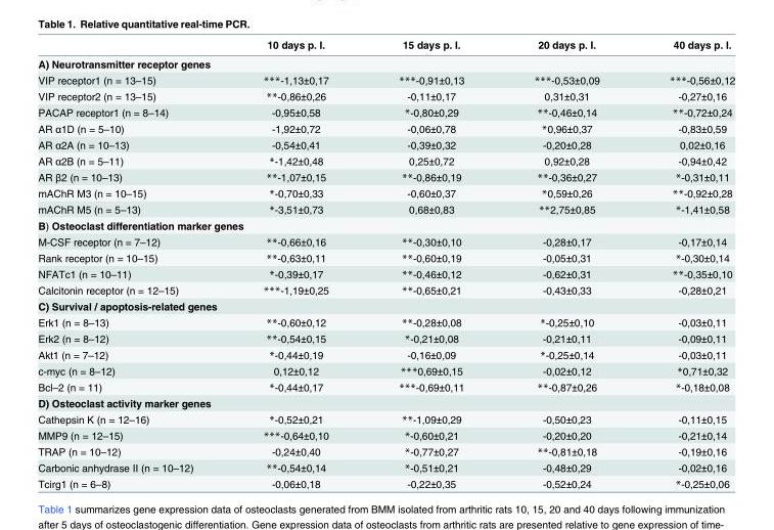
<table><thead><tr><td></td><td>10 days p. I.</td><td>15 days p. I.</td><td>20 days p. I.</td><td>40 days p. I.</td></tr></thead><tbody><tr><td colspan="5">A) Neurotransmitter receptor genes</td></tr><tr><td>VIP receptor1 (n = 13–15)</td><td>***-1,13±0,17</td><td>***-0,91±0,13</td><td>***-0,53±0,09</td><td>***-0,56±0,12</td></tr><tr><td>VIP receptor2 (n = 13–15)</td><td>**-0,86±0,26</td><td>-0,11±0,17</td><td>0,31±0,31</td><td>-0,27±0,16</td></tr><tr><td>PACAP receptor1 (n = 8–14)</td><td>-0,95±0,58</td><td>*-0,80±0,29</td><td>**-0,46±0,14</td><td>**-0,72±0,24</td></tr><tr><td>AR α1D (n = 5–10)</td><td>-1,92±0,72</td><td>-0,06±0,78</td><td>*0,96±0,37</td><td>-0,83±0,59</td></tr><tr><td>AR α2A (n = 10–13)</td><td>-0,54±0,41</td><td>-0,39±0,32</td><td>-0,20±0,28</td><td>0,02±0,16</td></tr><tr><td>AR α2B (n = 5–11)</td><td>*-1,42±0,48</td><td>0,25±0,72</td><td>0,92±0,28</td><td>-0,94±0,42</td></tr><tr><td>AR β2 (n = 10–13)</td><td>**-1,07±0,15</td><td>**-0,86±0,19</td><td>**-0,36±0,27</td><td>*-0,31±0,11</td></tr><tr><td>mAChR M3 (n = 10–15)</td><td>*-0,70±0,33</td><td>-0,60±0,37</td><td>*0,59±0,26</td><td>**-0,92±0,28</td></tr><tr><td>mAChR M5 (n = 5–13)</td><td>*-3,51±0,73</td><td>0,68±0,83</td><td>**2,75±0,85</td><td>*-1,41±0,58</td></tr><tr><td colspan="5">B) Osteoclast differentiation marker genes</td></tr><tr><td>M-CSF receptor (n = 7–12)</td><td>**-0,66±0,16</td><td>**-0,30±0,10</td><td>-0,28±0,17</td><td>-0,17±0,14</td></tr><tr><td>Rank receptor (n = 10–15)</td><td>**-0,63±0,11</td><td>**-0,60±0,19</td><td>-0,05±0,31</td><td>*-0,30±0,14</td></tr><tr><td>NFATc1 (n = 10–11)</td><td>*-0,39±0,17</td><td>**-0,46±0,12</td><td>-0,62±0,31</td><td>**-0,35±0,10</td></tr><tr><td>Calcitonin receptor (n = 12–15)</td><td>***-1,19±0,25</td><td>**-0,65±0,21</td><td>-0,43±0,33</td><td>-0,28±0,21</td></tr><tr><td colspan="5">C) Survival / apoptosis-related genes</td></tr><tr><td>Erk1 (n = 8–13)</td><td>**-0,60±0,12</td><td>**-0,28±0,08</td><td>*-0,25±0,10</td><td>-0,03±0,11</td></tr><tr><td>Erk2 (n = 8–12)</td><td>**-0,54±0,15</td><td>*-0,21±0,08</td><td>-0,21±0,11</td><td>-0,09±0,11</td></tr><tr><td>Akt1 (n = 7–12)</td><td>*-0,44±0,19</td><td>-0,16±0,09</td><td>*-0,25±0,14</td><td>-0,03±0,11</td></tr><tr><td>c-myc (n = 8–12)</td><td>0,12±0,12</td><td>***0,69±0,15</td><td>-0,02±0,12</td><td>*0,71±0,32</td></tr><tr><td>Bcl–2 (n = 11)</td><td>*-0,44±0,17</td><td>***-0,69±0,11</td><td>**-0,87±0,26</td><td>*-0,18±0,08</td></tr><tr><td colspan="5">D) Osteoclast activity marker genes</td></tr><tr><td>Cathepsin K (n = 12–16)</td><td>*-0,52±0,21</td><td>**-1,09±0,29</td><td>-0,50±0,23</td><td>-0,11±0,15</td></tr><tr><td>MMP9 (n = 12–15)</td><td>***-0,64±0,10</td><td>*-0,60±0,21</td><td>-0,20±0,20</td><td>-0,21±0,14</td></tr><tr><td>TRAP (n = 10–12)</td><td>-0,24±0,40</td><td>*-0,77±0,27</td><td>**-0,81±0,18</td><td>-0,19±0,16</td></tr><tr><td>Carbonic anhydrase II (n = 10–12)</td><td>**-0,54±0,14</td><td>*-0,51±0,21</td><td>-0,48±0,29</td><td>-0,02±0,16</td></tr><tr><td>Tcirg1 (n = 6–8)</td><td>-0,06±0,18</td><td>-0,22±0,35</td><td>-0,52±0,24</td><td>*-0,25±0,06</td></tr></tbody></table>